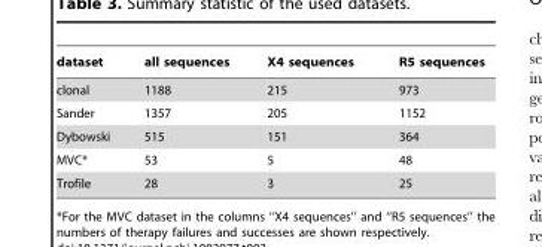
<table><thead><tr><td>dataset</td><td>all sequences</td><td>X4 sequences</td><td>R5 sequences</td></tr></thead><tbody><tr><td>clonal</td><td>1188</td><td>215</td><td>973</td></tr><tr><td>Sander</td><td>1357</td><td>205</td><td>1152</td></tr><tr><td>Dybowski</td><td>515</td><td>151</td><td>364</td></tr><tr><td>MVC*</td><td>53</td><td>5</td><td>48</td></tr><tr><td>Trofile</td><td>28</td><td>3</td><td>25</td></tr></tbody></table>